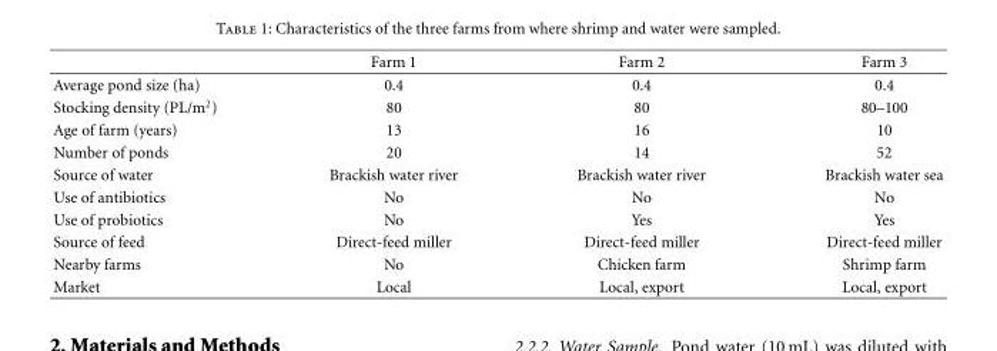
<table><thead><tr><td></td><td>Farm 1</td><td>Farm 2</td><td>Farm 3</td></tr></thead><tbody><tr><td>Average pond size (ha)</td><td>0.4</td><td>0.4</td><td>0.4</td></tr><tr><td>Stocking density (PL/m<sup>2</sup>)</td><td>80</td><td>80</td><td>80–100</td></tr><tr><td>Age of farm (years)</td><td>13</td><td>16</td><td>10</td></tr><tr><td>Number of ponds</td><td>20</td><td>14</td><td>52</td></tr><tr><td>Source of water</td><td>Brackish water river</td><td>Brackish water river</td><td>Brackish water sea</td></tr><tr><td>Use of antibiotics</td><td>No</td><td>No</td><td>No</td></tr><tr><td>Use of probiotics</td><td>No</td><td>Yes</td><td>Yes</td></tr><tr><td>Source of feed</td><td>Direct-feed miller</td><td>Direct-feed miller</td><td>Direct-feed miller</td></tr><tr><td>Nearby farms</td><td>No</td><td>Chicken farm</td><td>Shrimp farm</td></tr><tr><td>Market</td><td>Local</td><td>Local, export</td><td>Local, export</td></tr></tbody></table>